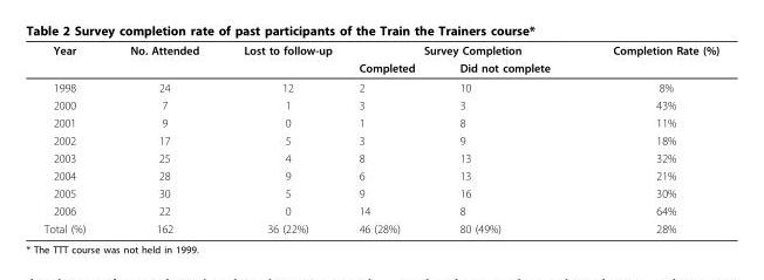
<table><thead><tr><td rowspan="2">Year</td><td rowspan="2">No. Attended</td><td rowspan="2">Lost to follow-up</td><td colspan="2">Survey Completion</td><td rowspan="2">Completion Rate (%)</td></tr><tr><td>Completed</td><td>Did not complete</td></tr></thead><tbody><tr><td>1998</td><td>24</td><td>12</td><td>2</td><td>10</td><td>8%</td></tr><tr><td>2000</td><td>7</td><td>1</td><td>3</td><td>3</td><td>43%</td></tr><tr><td>2001</td><td>9</td><td>0</td><td>1</td><td>8</td><td>11%</td></tr><tr><td>2002</td><td>17</td><td>5</td><td>3</td><td>9</td><td>18%</td></tr><tr><td>2003</td><td>25</td><td>4</td><td>8</td><td>13</td><td>32%</td></tr><tr><td>2004</td><td>28</td><td>9</td><td>6</td><td>13</td><td>21%</td></tr><tr><td>2005</td><td>30</td><td>5</td><td>9</td><td>16</td><td>30%</td></tr><tr><td>2006</td><td>22</td><td>0</td><td>14</td><td>8</td><td>64%</td></tr><tr><td>Total (%)</td><td>162</td><td>36 (22%)</td><td>46 (28%)</td><td>80 (49%)</td><td>28%</td></tr></tbody></table>